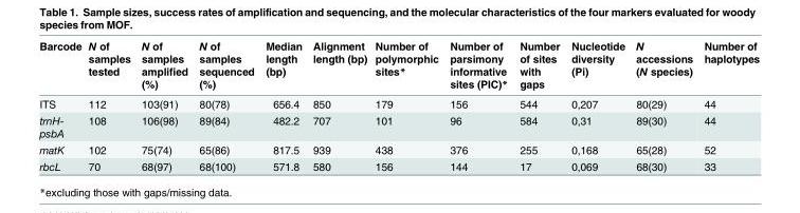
<table><thead><tr><td>Barcode</td><td>N of samples tested</td><td>N of samples amplified (%)</td><td>N of samples sequenced (%)</td><td>Median length (bp)</td><td>Alignment length (bp)</td><td>Number of polymorphic sites*</td><td>Number of parsimony informative sites (PIC)*</td><td>Number of sites with gaps</td><td>Nucleotide diversity (Pi)</td><td>N accessions (N species)</td><td>Number of haplotypes</td></tr></thead><tbody><tr><td>ITS</td><td>112</td><td>103(91)</td><td>80(78)</td><td>656.4</td><td>850</td><td>179</td><td>156</td><td>544</td><td>0,207</td><td>80(29)</td><td>44</td></tr><tr><td>trnH- psbA</td><td>108</td><td>106(98)</td><td>89(84)</td><td>482.2</td><td>707</td><td>101</td><td>96</td><td>584</td><td>0,31</td><td>89(30)</td><td>44</td></tr><tr><td>matK</td><td>102</td><td>75(74)</td><td>65(86)</td><td>817.5</td><td>939</td><td>438</td><td>376</td><td>255</td><td>0,168</td><td>65(28)</td><td>52</td></tr><tr><td>rbcL</td><td>70</td><td>68(97)</td><td>68(100)</td><td>571.8</td><td>580</td><td>156</td><td>144</td><td>17</td><td>0,069</td><td>68(30)</td><td>33</td></tr></tbody></table>